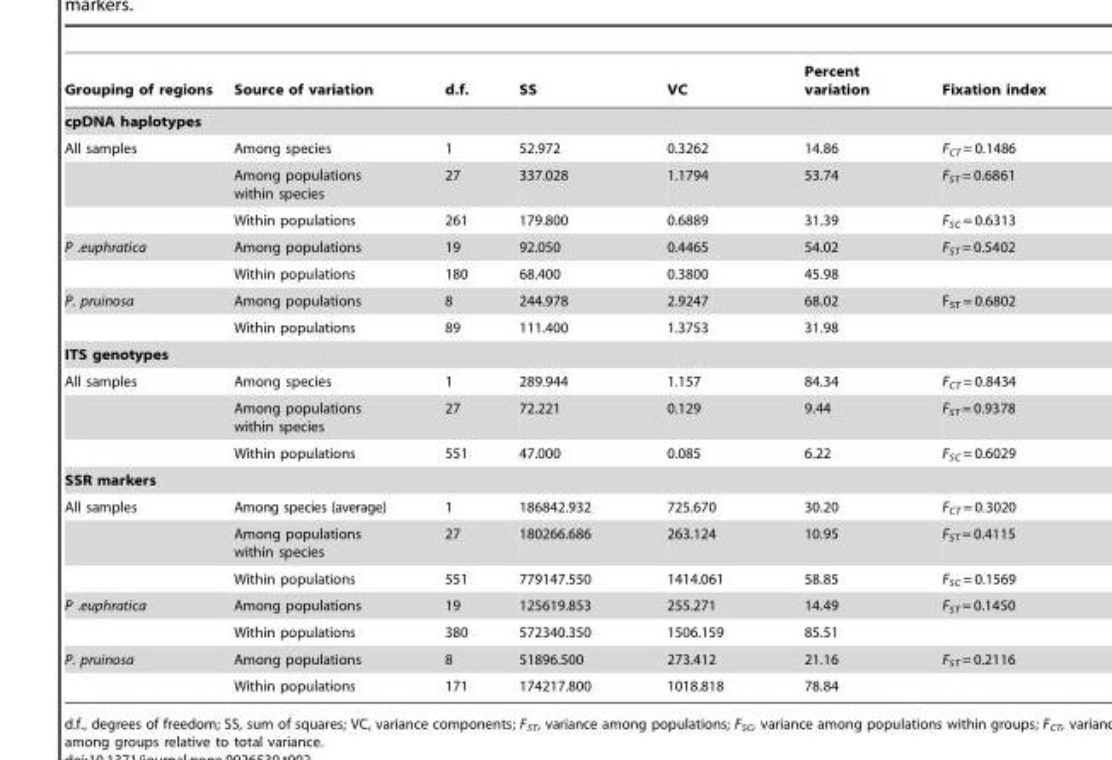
<table><thead><tr><td>Grouping of regions</td><td>Source of variation</td><td>d.f.</td><td>SS</td><td>VC</td><td>Percent variation</td><td>Fixation index</td></tr></thead><tbody><tr><td colspan="7">cpDNA haplotypes</td></tr><tr><td rowspan="3">All samples</td><td>Among species</td><td>1</td><td>52.972</td><td>0.3262</td><td>14.86</td><td>F<sub>CT</sub> = 0.1486</td></tr><tr><td>Among populations within species</td><td>27</td><td>337.028</td><td>1.1794</td><td>53.74</td><td>F<sub>ST</sub> = 0.6861</td></tr><tr><td>Within populations</td><td>261</td><td>179.800</td><td>0.6889</td><td>31.39</td><td>F<sub>SC</sub> = 0.6313</td></tr><tr><td rowspan="2">P .euphratica</td><td>Among populations</td><td>19</td><td>92.050</td><td>0.4465</td><td>54.02</td><td>F<sub>ST</sub> = 0.5402</td></tr><tr><td>Within populations</td><td>180</td><td>68.400</td><td>0.3800</td><td>45.98</td><td></td></tr><tr><td rowspan="2">P. pruinosa</td><td>Among populations</td><td>8</td><td>244.978</td><td>2.9247</td><td>68.02</td><td>F<sub>ST</sub> = 0.6802</td></tr><tr><td>Within populations</td><td>89</td><td>111.400</td><td>1.3753</td><td>31.98</td><td></td></tr><tr><td colspan="7">ITS genotypes</td></tr><tr><td rowspan="3">All samples</td><td>Among species</td><td>1</td><td>289.944</td><td>1.157</td><td>84.34</td><td>F<sub>CT</sub> = 0.8434</td></tr><tr><td>Among populations within species</td><td>27</td><td>72.221</td><td>0.129</td><td>9.44</td><td>F<sub>ST</sub> = 0.9378</td></tr><tr><td>Within populations</td><td>551</td><td>47.000</td><td>0.085</td><td>6.22</td><td>F<sub>SC</sub> = 0.6029</td></tr><tr><td colspan="7">SSR markers</td></tr><tr><td rowspan="3">All samples</td><td>Among species (average)</td><td>1</td><td>186842.932</td><td>725.670</td><td>30.20</td><td>F<sub>CT</sub> = 0.3020</td></tr><tr><td>Among populations within species</td><td>27</td><td>180266.686</td><td>263.124</td><td>10.95</td><td>F<sub>ST</sub> = 0.4115</td></tr><tr><td>Within populations</td><td>551</td><td>779147.550</td><td>1414.061</td><td>58.85</td><td>F<sub>SC</sub> = 0.1569</td></tr><tr><td rowspan="2">P .euphratica</td><td>Among populations</td><td>19</td><td>125619.853</td><td>255.271</td><td>14.49</td><td>F<sub>ST</sub> = 0.1450</td></tr><tr><td>Within populations</td><td>380</td><td>572340.350</td><td>1506.159</td><td>85.51</td><td></td></tr><tr><td rowspan="2">P. pruinosa</td><td>Among populations</td><td>8</td><td>51896.500</td><td>273.412</td><td>21.16</td><td>F<sub>ST</sub> = 0.2116</td></tr><tr><td>Within populations</td><td>171</td><td>174217.800</td><td>1018.818</td><td>78.84</td><td></td></tr></tbody></table>